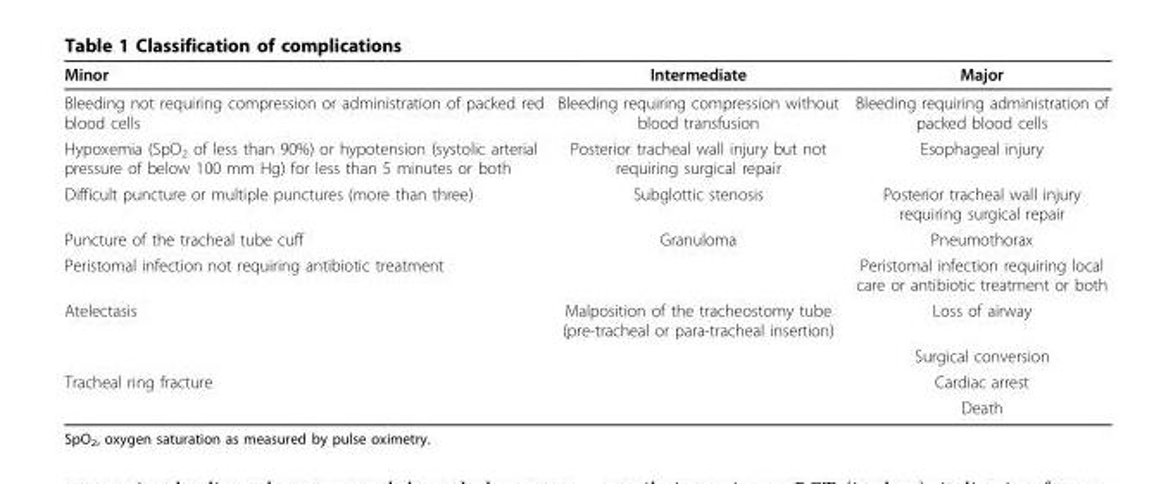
<table><thead><tr><td>Minor</td><td>Intermediate</td><td>Major</td></tr></thead><tbody><tr><td>Bleeding not requiring compression or administration of packed red blood cells</td><td>Bleeding requiring compression without blood transfusion</td><td>Bleeding requiring administration of packed blood cells</td></tr><tr><td>Hypoxemia (SpO<sub>2</sub> of less than 90%) or hypotension (systolic arterial pressure of below 100 mm Hg) for less than 5 minutes or both</td><td>Posterior tracheal wall injury but not requiring surgical repair</td><td>Esophageal injury</td></tr><tr><td>Difficult puncture or multiple punctures (more than three)</td><td>Subglottic stenosis</td><td>Posterior tracheal wall injury requiring surgical repair</td></tr><tr><td>Puncture of the tracheal tube cuff</td><td>Granuloma</td><td>Pneumothorax</td></tr><tr><td>Peristomal infection not requiring antibiotic treatment</td><td></td><td>Peristomal infection requiring local care or antibiotic treatment or both</td></tr><tr><td rowspan="2">Atelectasis</td><td>Malposition of the tracheostomy tube (pre-tracheal or para-tracheal insertion)</td><td>Loss of airway</td></tr><tr><td></td><td>Surgical conversion</td></tr><tr><td rowspan="2">Tracheal ring fracture</td><td></td><td>Cardiac arrest</td></tr><tr><td></td><td>Death</td></tr></tbody></table>